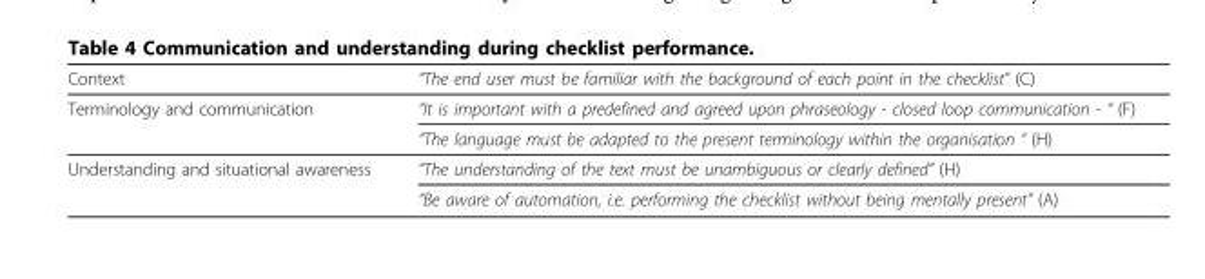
<table><thead><tr><td>Context</td><td>“The end user must be familiar with the background of each point in the checklist” (C)</td></tr></thead><tbody><tr><td rowspan="2">Terminology and communication</td><td>“It is important with a predefined and agreed upon phraseology - closed loop communication - “ (F)</td></tr><tr><td>“The language must be adapted to the present terminology within the organisation “ (H)</td></tr><tr><td rowspan="2">Understanding and situational awareness</td><td>“The understanding of the text must be unambiguous or clearly defined” (H)</td></tr><tr><td>“Be aware of automation, i.e. performing the checklist without being mentally present” (A)</td></tr></tbody></table>